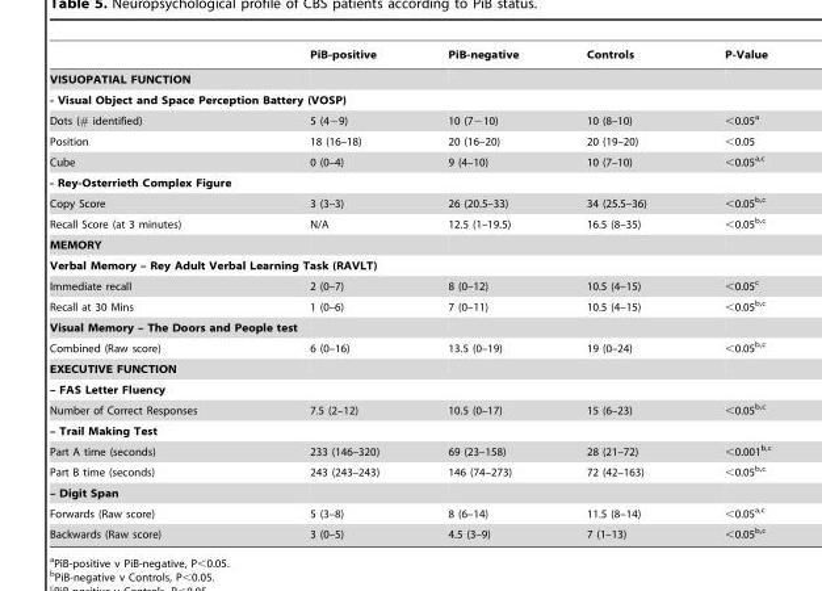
<table><thead><tr><td></td><td>PiB-positive</td><td>PiB-negative</td><td>Controls</td><td>P-Value</td></tr></thead><tbody><tr><td colspan="5">VISUOPATIAL FUNCTION</td></tr><tr><td colspan="5">- Visual Object and Space Perception Battery (VOSP)</td></tr><tr><td>Dots (# identified)</td><td>5 (4−9)</td><td>10 (7−10)</td><td>10 (8–10)</td><td>&lt;0.05<sup>a</sup></td></tr><tr><td>Position</td><td>18 (16–18)</td><td>20 (16–20)</td><td>20 (19–20)</td><td>&lt;0.05</td></tr><tr><td>Cube</td><td>0 (0–4)</td><td>9 (4–10)</td><td>10 (7–10)</td><td>&lt;0.05a,c</td></tr><tr><td colspan="5">- Rey-Osterrieth Complex Figure</td></tr><tr><td>Copy Score</td><td>3 (3–3)</td><td>26 (20.5–33)</td><td>34 (25.5–36)</td><td>&lt;0.05b,c</td></tr><tr><td>Recall Score (at 3 minutes)</td><td>N/A</td><td>12.5 (1–19.5)</td><td>16.5 (8–35)</td><td>&lt;0.05b,c</td></tr><tr><td colspan="5">MEMORY</td></tr><tr><td colspan="5">Verbal Memory – Rey Adult Verbal Learning Task (RAVLT)</td></tr><tr><td>Immediate recall</td><td>2 (0–7)</td><td>8 (0–12)</td><td>10.5 (4–15)</td><td>&lt;0.05<sup>c</sup></td></tr><tr><td>Recall at 30 Mins</td><td>1 (0–6)</td><td>7 (0–11)</td><td>10.5 (4–15)</td><td>&lt;0.05b,c</td></tr><tr><td colspan="5">Visual Memory – The Doors and People test</td></tr><tr><td>Combined (Raw score)</td><td>6 (0–16)</td><td>13.5 (0–19)</td><td>19 (0–24)</td><td>&lt;0.05b,c</td></tr><tr><td colspan="5">EXECUTIVE FUNCTION</td></tr><tr><td colspan="5">– FAS Letter Fluency</td></tr><tr><td>Number of Correct Responses</td><td>7.5 (2–12)</td><td>10.5 (0–17)</td><td>15 (6–23)</td><td>&lt;0.05b,c</td></tr><tr><td colspan="5">– Trail Making Test</td></tr><tr><td>Part A time (seconds)</td><td>233 (146–320)</td><td>69 (23–158)</td><td>28 (21–72)</td><td>&lt;0.001b,c</td></tr><tr><td>Part B time (seconds)</td><td>243 (243–243)</td><td>146 (74–273)</td><td>72 (42–163)</td><td>&lt;0.05b,c</td></tr><tr><td colspan="5">– Digit Span</td></tr><tr><td>Forwards (Raw score)</td><td>5 (3–8)</td><td>8 (6–14)</td><td>11.5 (8–14)</td><td>&lt;0.05a,c</td></tr><tr><td>Backwards (Raw score)</td><td>3 (0–5)</td><td>4.5 (3–9)</td><td>7 (1–13)</td><td>&lt;0.05b,c</td></tr></tbody></table>